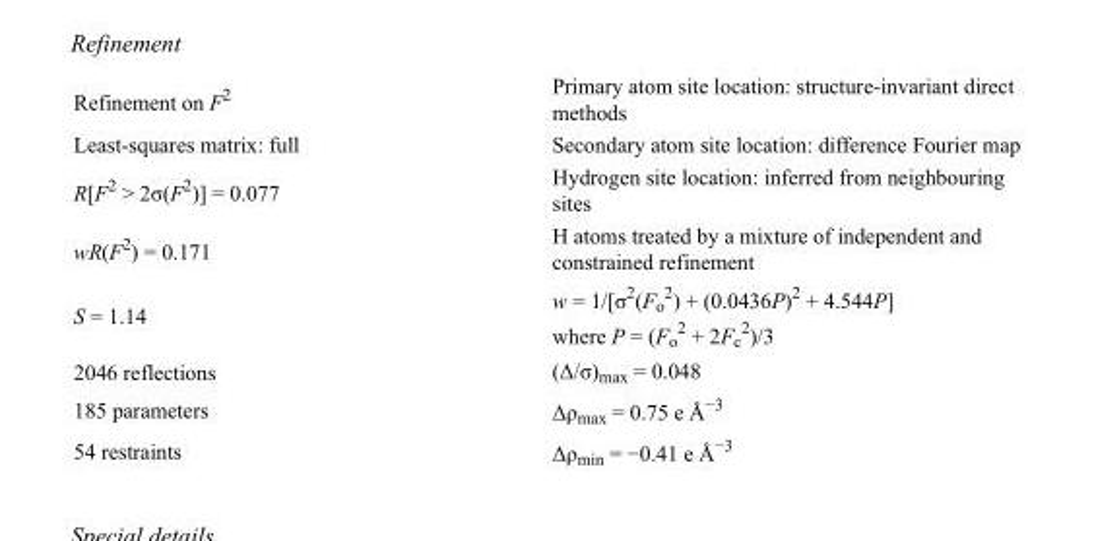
<table><tbody><tr><td>Refinement on F<sup>2</sup></td><td>Primary atom site location: structure-invariant direct methods</td></tr><tr><td>Least-squares matrix: full</td><td>Secondary atom site location: difference Fourier map</td></tr><tr><td>R[F<sup>2</sup> &gt; 2σ(F<sup>2</sup>)] = 0.077</td><td>Hydrogen site location: inferred from neighbouring sites</td></tr><tr><td>wR(F<sup>2</sup>) = 0.171</td><td>H atoms treated by a mixture of independent and constrained refinement</td></tr><tr><td>S = 1.14</td><td>w = 1/[σ<sup>2</sup>(F<sub>o</sub> <sup>2</sup>) + (0.0436P)<sup>2</sup> + 4.544P] where P = (F<sub>o</sub> <sup>2</sup> + 2F<sub>c</sub> <sup>2</sup>)/3</td></tr><tr><td>2046 reflections</td><td>(Δ/σ)<sub>max</sub> = 0.048</td></tr><tr><td>185 parameters</td><td>Δρ<sub>max</sub> = 0.75 e Å<sup>−3</sup></td></tr><tr><td>54 restraints</td><td>Δρ<sub>min</sub> = −0.41 e Å<sup>−3</sup></td></tr></tbody></table>